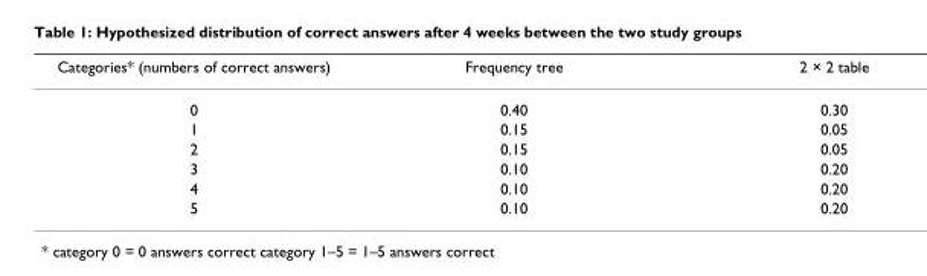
<table><thead><tr><td>Categories* (numbers of correct answers)</td><td>Frequency tree</td><td>2 × 2 table</td></tr></thead><tbody><tr><td>0</td><td>0.40</td><td>0.30</td></tr><tr><td>1</td><td>0.15</td><td>0.05</td></tr><tr><td>2</td><td>0.15</td><td>0.05</td></tr><tr><td>3</td><td>0.10</td><td>0.20</td></tr><tr><td>4</td><td>0.10</td><td>0.20</td></tr><tr><td>5</td><td>0.10</td><td>0.20</td></tr></tbody></table>